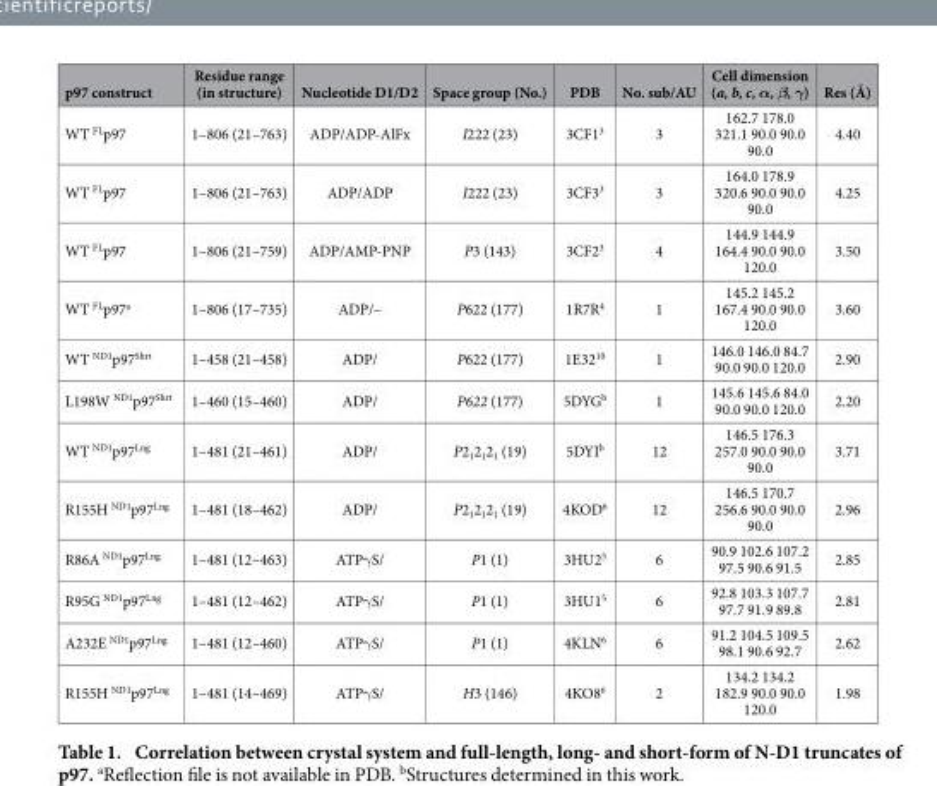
<table><thead><tr><td>p97 construct</td><td>Residue range (in structure)</td><td>Nucleotide D1/D2</td><td>Space group (No.)</td><td>PDB</td><td>No. sub/AU</td><td>Cell dimension (a, b, c, α, β, γ)</td><td>Res (Å)</td></tr></thead><tbody><tr><td>WT <sup>FL</sup>p97</td><td>1–806 (21–763)</td><td>ADP/ADP-AlFx</td><td>I222 (23)</td><td>3CF1<sup>3</sup></td><td>3</td><td>162.7 178.0 321.1 90.0 90.0 90.0</td><td>4.40</td></tr><tr><td>WT <sup>FL</sup>p97</td><td>1–806 (21–763)</td><td>ADP/ADP</td><td>I222 (23)</td><td>3CF3<sup>3</sup></td><td>3</td><td>164.0 178.9 320.6 90.0 90.0 90.0</td><td>4.25</td></tr><tr><td>WT <sup>FL</sup>p97</td><td>1–806 (21–759)</td><td>ADP/AMP-PNP</td><td>P3 (143)</td><td>3CF2<sup>3</sup></td><td>4</td><td>144.9 144.9 164.4 90.0 90.0 120.0</td><td>3.50</td></tr><tr><td>WT <sup>FL</sup>p97<sup>a</sup></td><td>1–806 (17–735)</td><td>ADP/–</td><td>P622 (177)</td><td>1R7R<sup>4</sup></td><td>1</td><td>145.2 145.2 167.4 90.0 90.0 120.0</td><td>3.60</td></tr><tr><td>WT <sup>ND1</sup>p97<sup>Shrt</sup></td><td>1–458 (21–458)</td><td>ADP/</td><td>P622 (177)</td><td>1E32<sup>10</sup></td><td>1</td><td>146.0 146.0 84.7 90.0 90.0 120.0</td><td>2.90</td></tr><tr><td>L198W <sup>ND1</sup>p97<sup>Shrt</sup></td><td>1–460 (15–460)</td><td>ADP/</td><td>P622 (177)</td><td>5DYG<sup>b</sup></td><td>1</td><td>145.6 145.6 84.0 90.0 90.0 120.0</td><td>2.20</td></tr><tr><td>WT <sup>ND1</sup>p97<sup>Lng</sup></td><td>1–481 (21–461)</td><td>ADP/</td><td>P2<sub>1</sub>2<sub>1</sub>2<sub>1</sub> (19)</td><td>5DYI<sup>b</sup></td><td>12</td><td>146.5 176.3 257.0 90.0 90.0 90.0</td><td>3.71</td></tr><tr><td>R155H <sup>ND1</sup>p97<sup>Lng</sup></td><td>1–481 (18–462)</td><td>ADP/</td><td>P2<sub>1</sub>2<sub>1</sub>2<sub>1</sub> (19)</td><td>4KOD<sup>6</sup></td><td>12</td><td>146.5 170.7 256.6 90.0 90.0 90.0</td><td>2.96</td></tr><tr><td>R86A <sup>ND1</sup>p97<sup>Lng</sup></td><td>1–481 (12–463)</td><td>ATPγ S/</td><td>P1 (1)</td><td>3HU2<sup>5</sup></td><td>6</td><td>90.9 102.6 107.2 97.5 90.6 91.5</td><td>2.85</td></tr><tr><td>R95G <sup>ND1</sup>p97<sup>Lng</sup></td><td>1–481 (12–462)</td><td>ATPγ S/</td><td>P1 (1)</td><td>3HU1<sup>5</sup></td><td>6</td><td>92.8 103.3 107.7 97.7 91.9 89.8</td><td>2.81</td></tr><tr><td>A232E <sup>ND1</sup>p97<sup>Lng</sup></td><td>1–481 (12–460)</td><td>ATPγ S/</td><td>P1 (1)</td><td>4KLN<sup>6</sup></td><td>6</td><td>91.2 104.5 109.5 98.1 90.6 92.7</td><td>2.62</td></tr><tr><td>R155H <sup>ND1</sup>p97<sup>Lng</sup></td><td>1–481 (14–469)</td><td>ATPγ S/</td><td>H3 (146)</td><td>4KO8<sup>6</sup></td><td>2</td><td>134.2 134.2 182.9 90.0 90.0 120.0</td><td>1.98</td></tr></tbody></table>